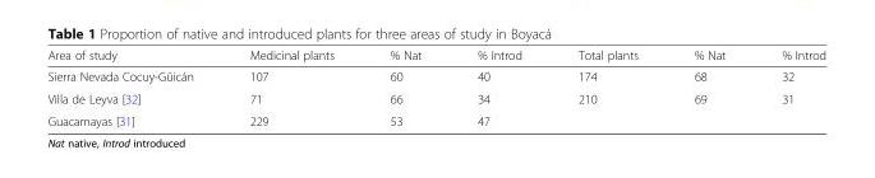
<table><thead><tr><td>Area of study</td><td>Medicinal plants</td><td>% Nat</td><td>% Introd</td><td>Total plants</td><td>% Nat</td><td>% Introd</td></tr></thead><tbody><tr><td>Sierra Nevada Cocuy-Güicán</td><td>107</td><td>60</td><td>40</td><td>174</td><td>68</td><td>32</td></tr><tr><td>Villa de Leyva [32]</td><td>71</td><td>66</td><td>34</td><td>210</td><td>69</td><td>31</td></tr><tr><td>Guacamayas [31]</td><td>229</td><td>53</td><td>47</td><td></td><td></td><td></td></tr></tbody></table>